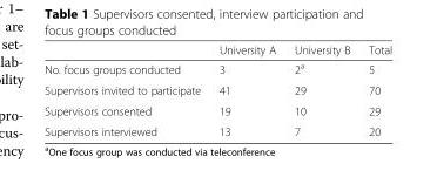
<table><thead><tr><td></td><td>University A</td><td>University B</td><td>Total</td></tr></thead><tbody><tr><td>No. focus groups conducted</td><td>3</td><td>2<sup>a</sup></td><td>5</td></tr><tr><td>Supervisors invited to participate</td><td>41</td><td>29</td><td>70</td></tr><tr><td>Supervisors consented</td><td>19</td><td>10</td><td>29</td></tr><tr><td>Supervisors interviewed</td><td>13</td><td>7</td><td>20</td></tr></tbody></table>